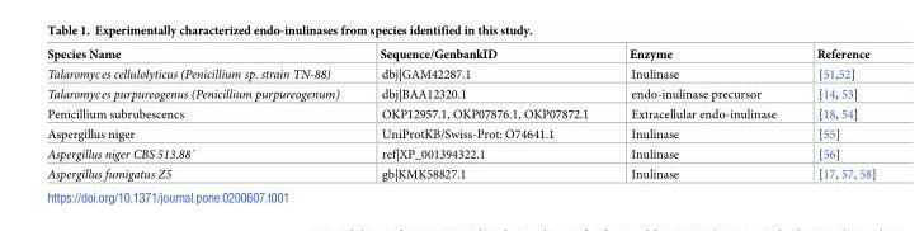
<table><thead><tr><td>Species Name</td><td>Sequence/GenbankID</td><td>Enzyme</td><td>Reference</td></tr></thead><tbody><tr><td>Talaromyces cellulolyticus (Penicillium sp. strain TN-88)</td><td>dbj|GAM42287.1</td><td>Inulinase</td><td>[51,52]</td></tr><tr><td>Talaromyces purpureogenus (Penicillium purpureogenum)</td><td>dbj|BAA12320.1</td><td>endo-inulinase precursor</td><td>[14, 53]</td></tr><tr><td>Penicillium subrubescencs</td><td>OKP12957.1, OKP07876.1, OKP07872.1</td><td>Extracellular endo-inulinase</td><td>[18, 54]</td></tr><tr><td>Aspergillus niger</td><td>UniProtKB/Swiss-Prot: O74641.1</td><td>Inulinase</td><td>[55]</td></tr><tr><td>Aspergillus niger CBS 513.88`</td><td>ref|XP_001394322.1</td><td>Inulinase</td><td>[56]</td></tr><tr><td>Aspergillus fumigatus Z5</td><td>gb|KMK58827.1</td><td>Inulinase</td><td>[17, 57, 58]</td></tr></tbody></table>